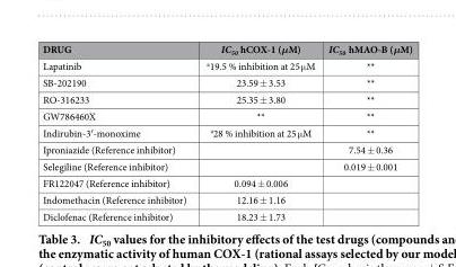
<table><thead><tr><td>DRUG</td><td>IC<sub>50</sub> hCOX-1 (μM)</td><td>IC<sub>50</sub> hMAO-B (μM)</td></tr></thead><tbody><tr><td>Lapatinib</td><td><sup>a</sup>19.5 % inhibition at 25 μ M</td><td>**</td></tr><tr><td>SB-202190</td><td>23.59 ± 3.53</td><td>**</td></tr><tr><td>RO-316233</td><td>25.35 ± 3.80</td><td>**</td></tr><tr><td>GW786460X</td><td>**</td><td>**</td></tr><tr><td>Indirubin-3′ -monoxime</td><td><sup>a</sup>28 % inhibition at 25 μ M</td><td>**</td></tr><tr><td>Iproniazide (Reference inhibitor)</td><td></td><td>7.54 ± 0.36</td></tr><tr><td>Selegiline (Reference inhibitor)</td><td></td><td>0.019 ± 0.001</td></tr><tr><td>FR122047 (Reference inhibitor)</td><td>0.094 ± 0.006</td><td></td></tr><tr><td>Indomethacin (Reference inhibitor)</td><td>12.16 ± 1.16</td><td></td></tr><tr><td>Diclofenac (Reference inhibitor)</td><td>18.23 ± 1.73</td><td></td></tr></tbody></table>